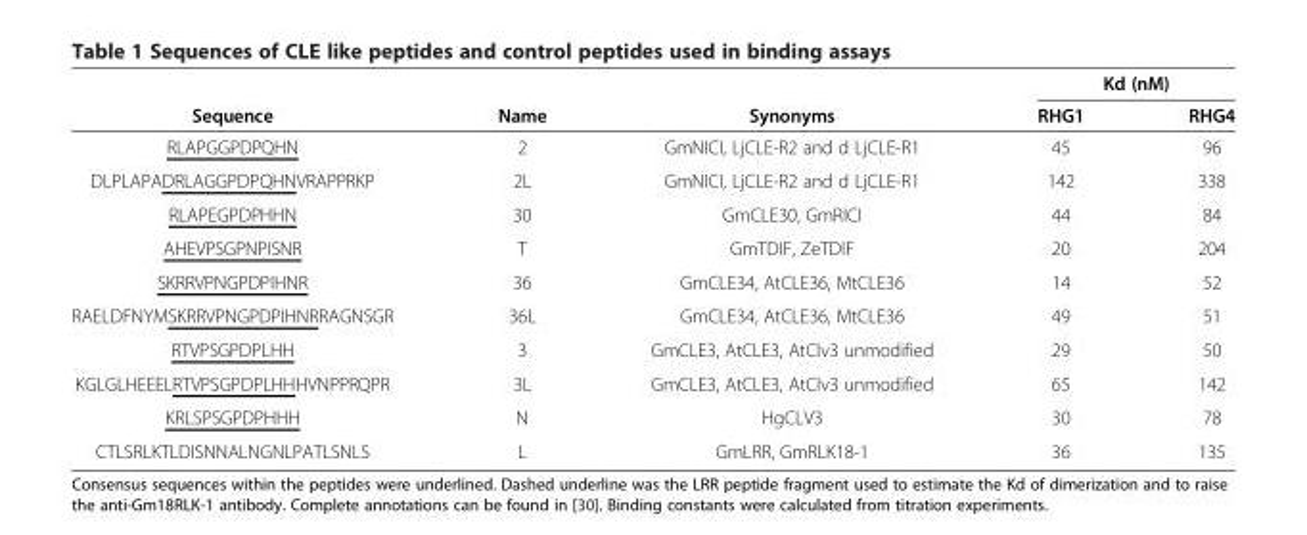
<table><thead><tr><td rowspan="2">Sequence</td><td rowspan="2">Name</td><td rowspan="2">Synonyms</td><td colspan="2">Kd (nM)</td></tr><tr><td>RHG1</td><td>RHG4</td></tr></thead><tbody><tr><td>RLAPGGPDPQHN</td><td>2</td><td>GmNICI, LjCLE-R2 and d LjCLE-R1</td><td>45</td><td>96</td></tr><tr><td>DLPLAPADRLAGGPDPQHNVRAPPRKP</td><td>2L</td><td>GmNICI, LjCLE-R2 and d LjCLE-R1</td><td>142</td><td>338</td></tr><tr><td>RLAPEGPDPHHN</td><td>30</td><td>GmCLE30, GmRICI</td><td>44</td><td>84</td></tr><tr><td>AHEVPSGPNPISNR</td><td>T</td><td>GmTDIF, ZeTDIF</td><td>20</td><td>204</td></tr><tr><td>SKRRVPNGPDPIHNR</td><td>36</td><td>GmCLE34, AtCLE36, MtCLE36</td><td>14</td><td>52</td></tr><tr><td>RAELDFNYMSKRRVPNGPDPIHNRRAGNSGR</td><td>36L</td><td>GmCLE34, AtCLE36, MtCLE36</td><td>49</td><td>51</td></tr><tr><td>RTVPSGPDPLHH</td><td>3</td><td>GmCLE3, AtCLE3, AtClv3 unmodified</td><td>29</td><td>50</td></tr><tr><td>KGLGLHEEELRTVPSGPDPLHHHVNPPRQPR</td><td>3L</td><td>GmCLE3, AtCLE3, AtClv3 unmodified</td><td>65</td><td>142</td></tr><tr><td>KRLSPSGPDPHHH</td><td>N</td><td>HgCLV3</td><td>30</td><td>78</td></tr><tr><td>CTLSRLKTLDISNNALNGNLPATLSNLS</td><td>L</td><td>GmLRR, GmRLK18-1</td><td>36</td><td>135</td></tr></tbody></table>